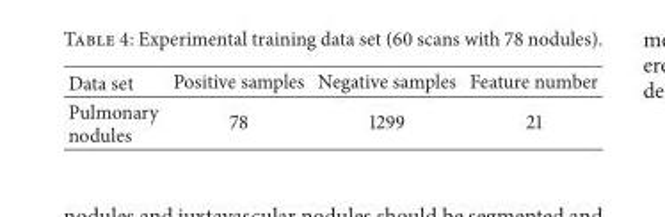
<table><thead><tr><td>Data set</td><td>Positive samples</td><td>Negative samples</td><td>Feature number</td></tr></thead><tbody><tr><td>Pulmonary nodules</td><td>78</td><td>1299</td><td>21</td></tr></tbody></table>